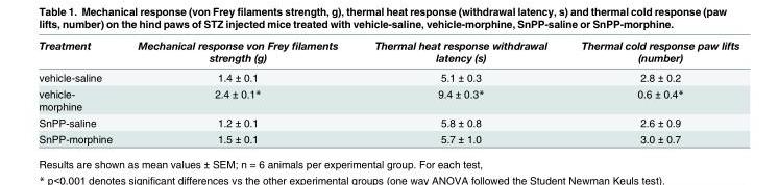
<table><thead><tr><td>Treatment</td><td>Mechanical response von Frey filaments strength (g)</td><td>Thermal heat response withdrawal latency (s)</td><td>Thermal cold response paw lifts (number)</td></tr></thead><tbody><tr><td>vehicle-saline</td><td>1.4 ± 0.1</td><td>5.1 ± 0.3</td><td>2.8 ± 0.2</td></tr><tr><td>vehicle- morphine</td><td>2.4 ± 0.1*</td><td>9.4 ± 0.3*</td><td>0.6 ± 0.4*</td></tr><tr><td>SnPP-saline</td><td>1.2 ± 0.1</td><td>5.8 ± 0.8</td><td>2.6 ± 0.9</td></tr><tr><td>SnPP-morphine</td><td>1.5 ± 0.1</td><td>5.7 ± 1.0</td><td>3.0 ± 0.7</td></tr></tbody></table>